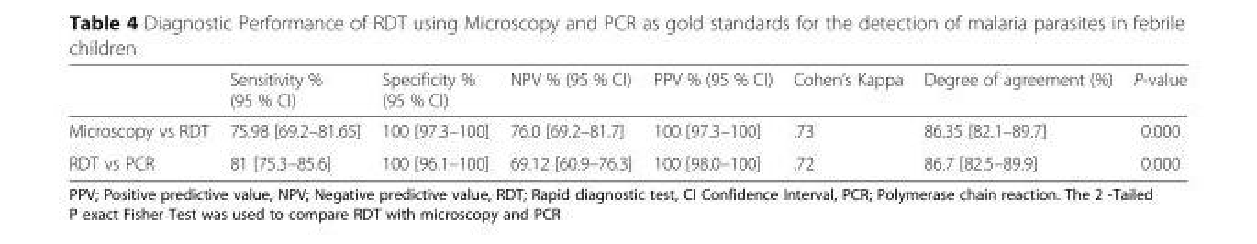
<table><thead><tr><td></td><td>Sensitivity % (95 % CI)</td><td>Specificity % (95 % CI)</td><td>NPV % (95 % CI)</td><td>PPV % (95 % CI)</td><td>Cohen’s Kappa</td><td>Degree of agreement (%)</td><td>P-value</td></tr></thead><tbody><tr><td>Microscopy vs RDT</td><td>75.98 [69.2–81.65]</td><td>100 [97.3–100]</td><td>76.0 [69.2–81.7]</td><td>100 [97.3–100]</td><td>.73</td><td>86.35 [82.1–89.7]</td><td>0.000</td></tr><tr><td>RDT vs PCR</td><td>81 [75.3–85.6]</td><td>100 [96.1–100]</td><td>69.12 [60.9–76.3]</td><td>100 [98.0–100]</td><td>.72</td><td>86.7 [82.5–89.9]</td><td>0.000</td></tr></tbody></table>